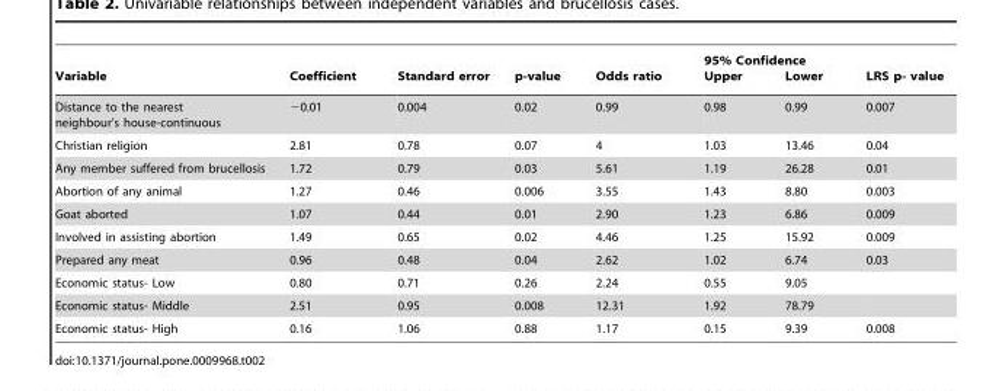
<table><thead><tr><td rowspan="2">Variable Distance to the nearest neighbour’s house-continuous</td><td rowspan="2">Coefficient −0.01</td><td rowspan="2">Standard error 0.004</td><td rowspan="2">p-value 0.02</td><td rowspan="2">Odds ratio 0.99</td><td colspan="2">95% Confidence Upper Lower</td><td rowspan="2">LRS p- value 0.007</td></tr><tr><td>0.98</td><td>0.99</td></tr></thead><tbody><tr><td>Christian religion</td><td>2.81</td><td>0.78</td><td>0.07</td><td>4</td><td>1.03</td><td>13.46</td><td>0.04</td></tr><tr><td>Any member suffered from brucellosis</td><td>1.72</td><td>0.79</td><td>0.03</td><td>5.61</td><td>1.19</td><td>26.28</td><td>0.01</td></tr><tr><td>Abortion of any animal</td><td>1.27</td><td>0.46</td><td>0.006</td><td>3.55</td><td>1.43</td><td>8.80</td><td>0.003</td></tr><tr><td>Goat aborted</td><td>1.07</td><td>0.44</td><td>0.01</td><td>2.90</td><td>1.23</td><td>6.86</td><td>0.009</td></tr><tr><td>Involved in assisting abortion</td><td>1.49</td><td>0.65</td><td>0.02</td><td>4.46</td><td>1.25</td><td>15.92</td><td>0.009</td></tr><tr><td>Prepared any meat</td><td>0.96</td><td>0.48</td><td>0.04</td><td>2.62</td><td>1.02</td><td>6.74</td><td>0.03</td></tr><tr><td>Economic status- Low</td><td>0.80</td><td>0.71</td><td>0.26</td><td>2.24</td><td>0.55</td><td>9.05</td><td></td></tr><tr><td>Economic status- Middle</td><td>2.51</td><td>0.95</td><td>0.008</td><td>12.31</td><td>1.92</td><td>78.79</td><td></td></tr><tr><td>Economic status- High</td><td>0.16</td><td>1.06</td><td>0.88</td><td>1.17</td><td>0.15</td><td>9.39</td><td>0.008</td></tr></tbody></table>